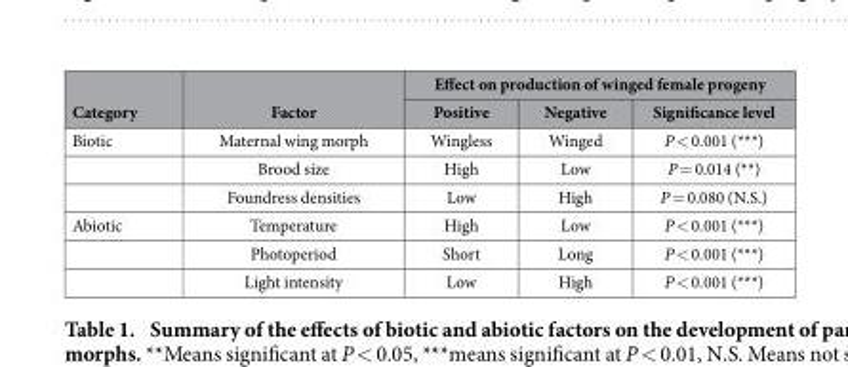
<table><thead><tr><td rowspan="2">Category</td><td rowspan="2">Factor</td><td colspan="3">Effect on production of winged female progeny</td></tr><tr><td>Positive</td><td>Negative</td><td>Significance level</td></tr></thead><tbody><tr><td rowspan="3">Biotic</td><td>Maternal wing morph</td><td>Wingless</td><td>Winged</td><td>P &lt; 0.001 (***)</td></tr><tr><td>Brood size</td><td>High</td><td>Low</td><td>P = 0.014 (**)</td></tr><tr><td>Foundress densities</td><td>Low</td><td>High</td><td>P = 0.080 (N.S.)</td></tr><tr><td rowspan="3">Abiotic</td><td>Temperature</td><td>High</td><td>Low</td><td>P &lt; 0.001 (***)</td></tr><tr><td>Photoperiod</td><td>Short</td><td>Long</td><td>P &lt; 0.001 (***)</td></tr><tr><td>Light intensity</td><td>Low</td><td>High</td><td>P &lt; 0.001 (***)</td></tr></tbody></table>